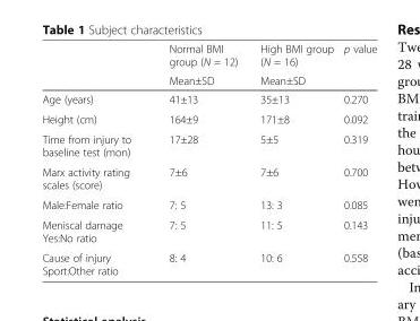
<table><thead><tr><td rowspan="2"></td><td rowspan="2">Normal BMI group (N = 12) Mean±SD</td><td rowspan="2">High BMI group (N = 16) Mean±SD</td><td rowspan="2">p value</td></tr><tr></tr></thead><tbody><tr><td>Age (years)</td><td>41±13</td><td>35±13</td><td>0.270</td></tr><tr><td>Height (cm)</td><td>164±9</td><td>171±8</td><td>0.092</td></tr><tr><td>Time from injury to baseline test (mon)</td><td>17±28</td><td>5±5</td><td>0.319</td></tr><tr><td>Marx activity rating scales (score)</td><td>7±6</td><td>7±6</td><td>0.700</td></tr><tr><td>Male:Female ratio</td><td>7: 5</td><td>13: 3</td><td>0.085</td></tr><tr><td>Meniscal damage Yes:No ratio</td><td>7: 5</td><td>11: 5</td><td>0.143</td></tr><tr><td>Cause of injury Sport:Other ratio</td><td>8: 4</td><td>10: 6</td><td>0.558</td></tr></tbody></table>